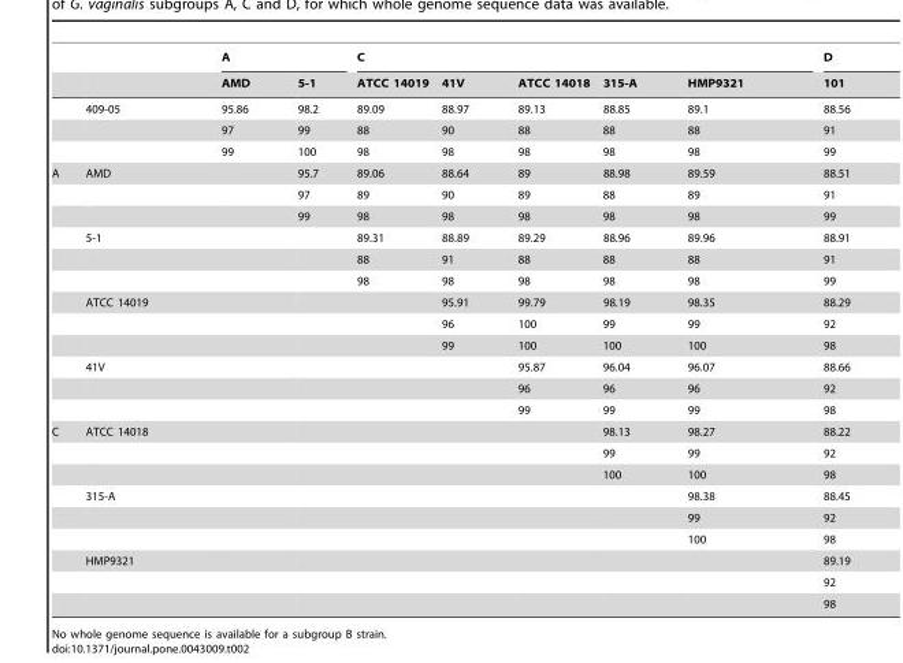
<table><thead><tr><td rowspan="2"></td><td rowspan="2"></td><td colspan="2">A</td><td colspan="5">C</td><td rowspan="2">D 101</td></tr><tr><td>AMD</td><td>5-1</td><td>ATCC 14019</td><td>41V</td><td>ATCC 14018</td><td>315-A</td><td>HMP9321</td></tr></thead><tbody><tr><td></td><td>409-05</td><td>95.86</td><td>98.2</td><td>89.09</td><td>88.97</td><td>89.13</td><td>88.85</td><td>89.1</td><td>88.56</td></tr><tr><td></td><td></td><td>97</td><td>99</td><td>88</td><td>90</td><td>88</td><td>88</td><td>88</td><td>91</td></tr><tr><td></td><td></td><td>99</td><td>100</td><td>98</td><td>98</td><td>98</td><td>98</td><td>98</td><td>99</td></tr><tr><td rowspan="12">A</td><td>AMD</td><td></td><td>95.7</td><td>89.06</td><td>88.64</td><td>89</td><td>88.98</td><td>89.59</td><td>88.51</td></tr><tr><td></td><td></td><td>97</td><td>89</td><td>90</td><td>89</td><td>88</td><td>89</td><td>91</td></tr><tr><td></td><td></td><td>99</td><td>98</td><td>98</td><td>98</td><td>98</td><td>98</td><td>99</td></tr><tr><td>5-1</td><td></td><td></td><td>89.31</td><td>88.89</td><td>89.29</td><td>88.96</td><td>89.96</td><td>88.91</td></tr><tr><td></td><td></td><td></td><td>88</td><td>91</td><td>88</td><td>88</td><td>88</td><td>91</td></tr><tr><td></td><td></td><td></td><td>98</td><td>98</td><td>98</td><td>98</td><td>98</td><td>99</td></tr><tr><td>ATCC 14019</td><td></td><td></td><td></td><td>95.91</td><td>99.79</td><td>98.19</td><td>98.35</td><td>88.29</td></tr><tr><td></td><td></td><td></td><td></td><td>96</td><td>100</td><td>99</td><td>99</td><td>92</td></tr><tr><td></td><td></td><td></td><td></td><td>99</td><td>100</td><td>100</td><td>100</td><td>98</td></tr><tr><td>41V</td><td></td><td></td><td></td><td></td><td>95.87</td><td>96.04</td><td>96.07</td><td>88.66</td></tr><tr><td></td><td></td><td></td><td></td><td></td><td>96</td><td>96</td><td>96</td><td>92</td></tr><tr><td></td><td></td><td></td><td></td><td></td><td>99</td><td>99</td><td>99</td><td>98</td></tr><tr><td rowspan="9">C</td><td>ATCC 14018</td><td></td><td></td><td></td><td></td><td></td><td>98.13</td><td>98.27</td><td>88.22</td></tr><tr><td></td><td></td><td></td><td></td><td></td><td></td><td>99</td><td>99</td><td>92</td></tr><tr><td></td><td></td><td></td><td></td><td></td><td></td><td>100</td><td>100</td><td>98</td></tr><tr><td>315-A</td><td></td><td></td><td></td><td></td><td></td><td></td><td>98.38</td><td>88.45</td></tr><tr><td></td><td></td><td></td><td></td><td></td><td></td><td></td><td>99</td><td>92</td></tr><tr><td></td><td></td><td></td><td></td><td></td><td></td><td></td><td>100</td><td>98</td></tr><tr><td>HMP9321</td><td></td><td></td><td></td><td></td><td></td><td></td><td></td><td>89.19</td></tr><tr><td></td><td></td><td></td><td></td><td></td><td></td><td></td><td></td><td>92</td></tr><tr><td></td><td></td><td></td><td></td><td></td><td></td><td></td><td></td><td>98</td></tr></tbody></table>